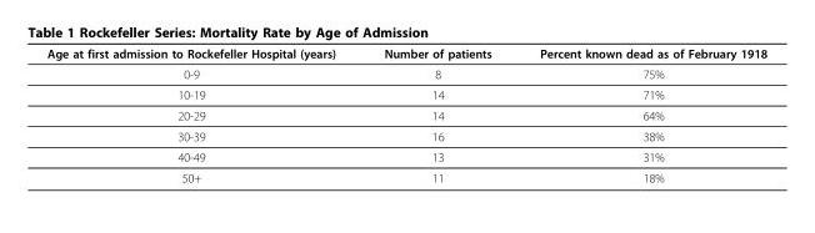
<table><thead><tr><td>Age at first admission to Rockefeller Hospital (years)</td><td>Number of patients</td><td>Percent known dead as of February 1918</td></tr></thead><tbody><tr><td>0-9</td><td>8</td><td>75%</td></tr><tr><td>10-19</td><td>14</td><td>71%</td></tr><tr><td>20-29</td><td>14</td><td>64%</td></tr><tr><td>30-39</td><td>16</td><td>38%</td></tr><tr><td>40-49</td><td>13</td><td>31%</td></tr><tr><td>50+</td><td>11</td><td>18%</td></tr></tbody></table>